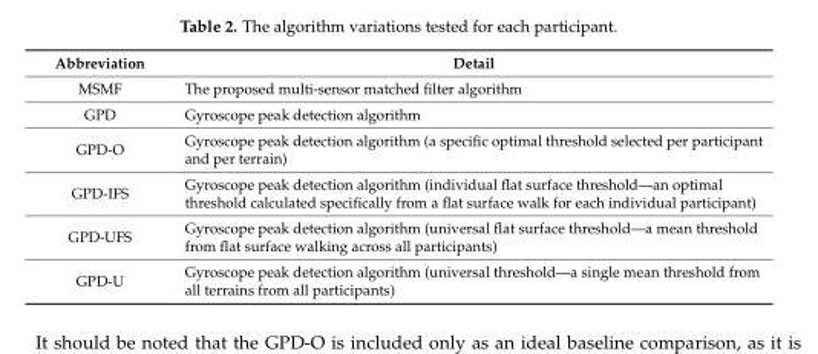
<table><thead><tr><td>Abbreviation</td><td>Detail</td></tr></thead><tbody><tr><td>MSMF</td><td>The proposed multi-sensor matched filter algorithm</td></tr><tr><td>GPD</td><td>Gyroscope peak detection algorithm</td></tr><tr><td>GPD-O</td><td>Gyroscope peak detection algorithm (a specific optimal threshold selected per participant and per terrain)</td></tr><tr><td>GPD-IFS</td><td>Gyroscope peak detection algorithm (individual flat surface threshold—an optimal threshold calculated specifically from a flat surface walk for each individual participant)</td></tr><tr><td>GPD-UFS</td><td>Gyroscope peak detection algorithm (universal flat surface threshold—a mean threshold from flat surface walking across all participants)</td></tr><tr><td>GPD-U</td><td>Gyroscope peak detection algorithm (universal threshold—a single mean threshold from all terrains from all participants)</td></tr></tbody></table>